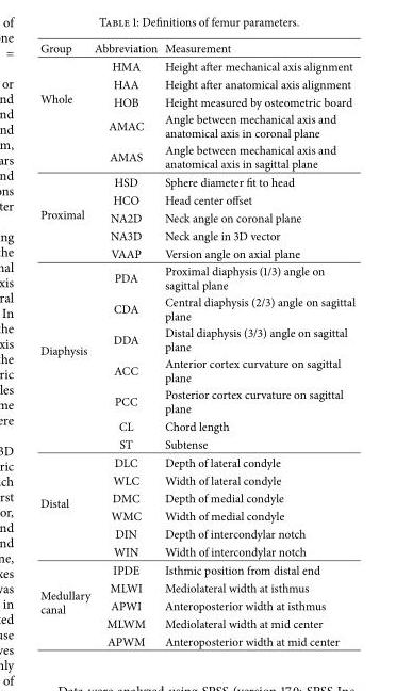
<table><thead><tr><td>Group</td><td>Abbreviation</td><td>Measurement</td></tr></thead><tbody><tr><td rowspan="5">Whole</td><td>HMA</td><td>Height after mechanical axis alignment</td></tr><tr><td>HAA</td><td>Height after anatomical axis alignment</td></tr><tr><td>HOB</td><td>Height measured by osteometric board</td></tr><tr><td>AMAC</td><td>Angle between mechanical axis and anatomical axis in coronal plane</td></tr><tr><td>AMAS</td><td>Angle between mechanical axis and anatomical axis in sagittal plane</td></tr><tr><td rowspan="5">Proximal</td><td>HSD</td><td>Sphere diameter fit to head</td></tr><tr><td>HCO</td><td>Head center offset</td></tr><tr><td>NA2D</td><td>Neck angle on coronal plane</td></tr><tr><td>NA3D</td><td>Neck angle in 3D vector</td></tr><tr><td>VAAP</td><td>Version angle on axial plane</td></tr><tr><td rowspan="7">Diaphysis</td><td>PDA</td><td>Proximal diaphysis (1/3) angle on sagittal plane</td></tr><tr><td>CDA</td><td>Central diaphysis (2/3) angle on sagittal plane</td></tr><tr><td>DDA</td><td>Distal diaphysis (3/3) angle on sagittal plane</td></tr><tr><td>ACC</td><td>Anterior cortex curvature on sagittal plane</td></tr><tr><td>PCC</td><td>Posterior cortex curvature on sagittal plane</td></tr><tr><td>CL</td><td>Chord length</td></tr><tr><td>ST</td><td>Subtense</td></tr><tr><td rowspan="6">Distal</td><td>DLC</td><td>Depth of lateral condyle</td></tr><tr><td>WLC</td><td>Width of lateral condyle</td></tr><tr><td>DMC</td><td>Depth of medial condyle</td></tr><tr><td>WMC</td><td>Width of medial condyle</td></tr><tr><td>DIN</td><td>Depth of intercondylar notch</td></tr><tr><td>WIN</td><td>Width of intercondylar notch</td></tr><tr><td rowspan="5">Medullary canal</td><td>IPDE</td><td>Isthmic position from distal end</td></tr><tr><td>MLWI</td><td>Mediolateral width at isthmus</td></tr><tr><td>APWI</td><td>Anteroposterior width at isthmus</td></tr><tr><td>MLWM</td><td>Mediolateral width at mid center</td></tr><tr><td>APWM</td><td>Anteroposterior width at mid center</td></tr></tbody></table>